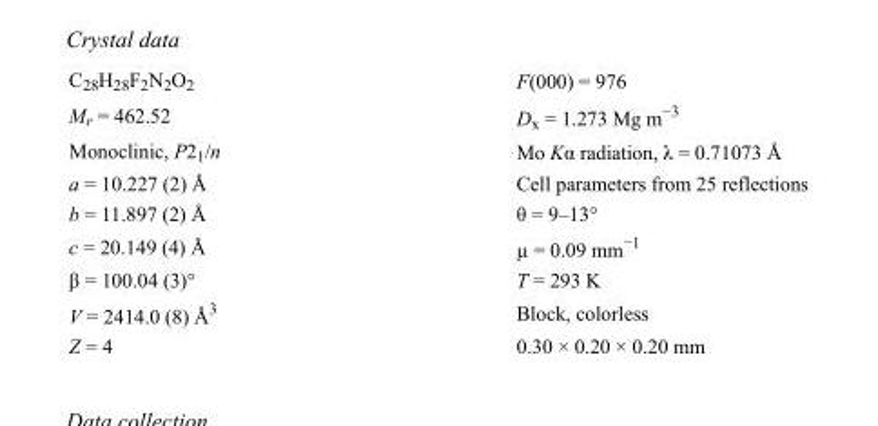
<table><tbody><tr><td>C<sub>28</sub>H<sub>28</sub>F<sub>2</sub>N<sub>2</sub>O<sub>2</sub></td><td>F(000) = 976</td></tr><tr><td>M<sub>r</sub> = 462.52</td><td>D<sub>x</sub> = 1.273 Mg m<sup>−3</sup></td></tr><tr><td>Monoclinic, P2<sub>1</sub>/n</td><td>Mo Kα radiation, λ = 0.71073 Å</td></tr><tr><td>a = 10.227 (2) Å</td><td>Cell parameters from 25 reflections</td></tr><tr><td>b = 11.897 (2) Å</td><td>θ = 9–13°</td></tr><tr><td>c = 20.149 (4) Å</td><td>µ = 0.09 mm<sup>−1</sup></td></tr><tr><td>β = 100.04 (3)°</td><td>T = 293 K</td></tr><tr><td>V = 2414.0 (8) Å<sup>3</sup></td><td>Block, colorless</td></tr><tr><td>Z = 4</td><td>0.30 × 0.20 × 0.20 mm</td></tr></tbody></table>